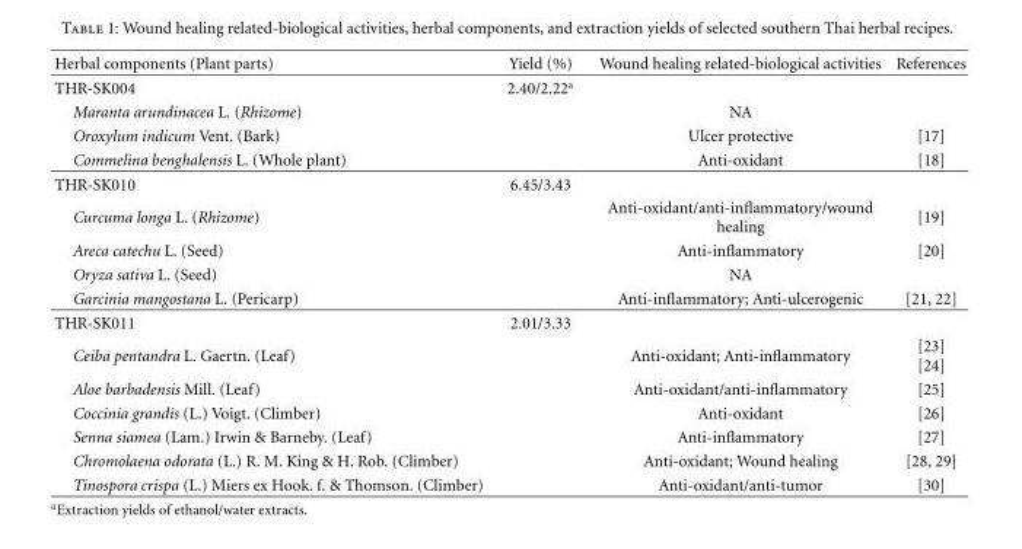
<table><thead><tr><td>Herbal components (Plant parts)</td><td>Yield (%)</td><td>Wound healing related-biological activities</td><td>References</td></tr></thead><tbody><tr><td>THR-SK004</td><td>2.40/2.22<sup>a</sup></td><td></td><td></td></tr><tr><td>Maranta arundinacea L. (Rhizome)</td><td></td><td>NA</td><td></td></tr><tr><td>Oroxylum indicum Vent. (Bark)</td><td></td><td>Ulcer protective</td><td>[17]</td></tr><tr><td>Commelina benghalensis L. (Whole plant)</td><td></td><td>Anti-oxidant</td><td>[18]</td></tr><tr><td>THR-SK010</td><td>6.45/3.43</td><td></td><td></td></tr><tr><td>Curcuma longa L. (Rhizome)</td><td></td><td>Anti-oxidant/anti-inflammatory/wound healing</td><td>[19]</td></tr><tr><td>Areca catechu L. (Seed)</td><td></td><td>Anti-inflammatory</td><td>[20]</td></tr><tr><td>Oryza sativa L. (Seed)</td><td></td><td>NA</td><td></td></tr><tr><td>Garcinia mangostana L. (Pericarp)</td><td></td><td>Anti-inflammatory; Anti-ulcerogenic</td><td>[21, 22]</td></tr><tr><td>THR-SK011</td><td>2.01/3.33</td><td></td><td></td></tr><tr><td>Ceiba pentandra L. Gaertn. (Leaf)</td><td></td><td>Anti-oxidant; Anti-inflammatory</td><td>[23] [24]</td></tr><tr><td>Aloe barbadensis Mill. (Leaf)</td><td></td><td>Anti-oxidant/anti-inflammatory</td><td>[25]</td></tr><tr><td>Coccinia grandis (L.) Voigt. (Climber)</td><td></td><td>Anti-oxidant</td><td>[26]</td></tr><tr><td>Senna siamea (Lam.) Irwin &amp; Barneby. (Leaf)</td><td></td><td>Anti-inflammatory</td><td>[27]</td></tr><tr><td>Chromolaena odorata (L.) R. M. King &amp; H. Rob. (Climber)</td><td></td><td>Anti-oxidant; Wound healing</td><td>[28, 29]</td></tr><tr><td>Tinospora crispa (L.) Miers ex Hook. f. &amp; Thomson. (Climber)</td><td></td><td>Anti-oxidant/anti-tumor</td><td>[30]</td></tr></tbody></table>